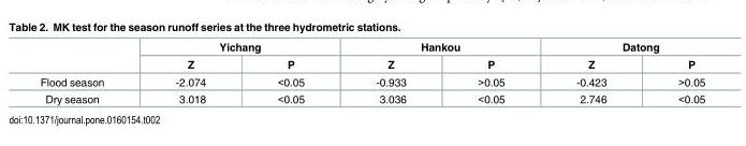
<table><thead><tr><td rowspan="2"></td><td colspan="2">Yichang</td><td colspan="2">Hankou</td><td colspan="2">Datong</td></tr><tr><td>Z</td><td>P</td><td>Z</td><td>P</td><td>Z</td><td>P</td></tr></thead><tbody><tr><td>Flood season</td><td>-2.074</td><td>&lt;0.05</td><td>-0.933</td><td>&gt;0.05</td><td>-0.423</td><td>&gt;0.05</td></tr><tr><td>Dry season</td><td>3.018</td><td>&lt;0.05</td><td>3.036</td><td>&lt;0.05</td><td>2.746</td><td>&lt;0.05</td></tr></tbody></table>